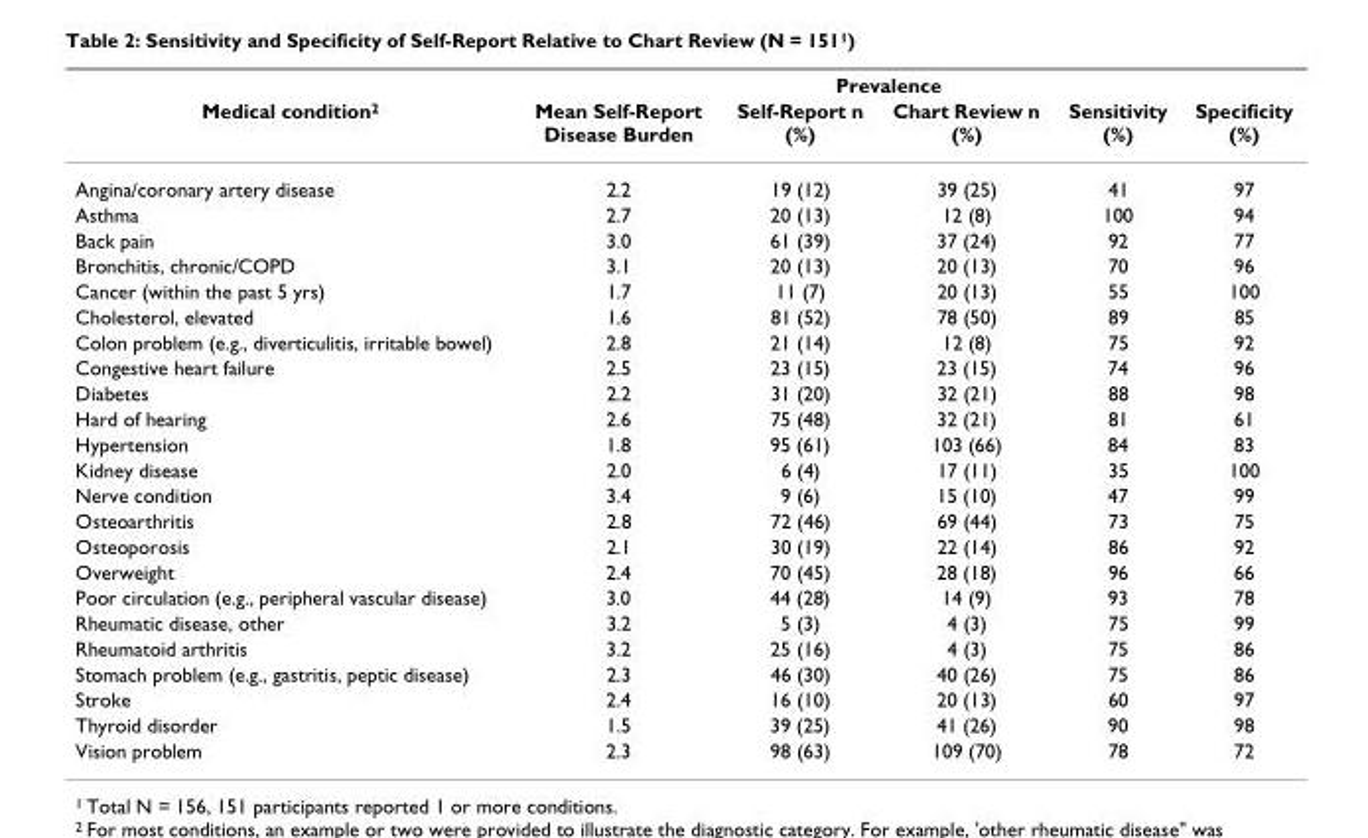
<table><thead><tr><td rowspan="2">Medical condition<sup>2</sup></td><td rowspan="2">Mean Self-Report Disease Burden</td><td colspan="2">Prevalence</td><td rowspan="2">Sensitivity (%)</td><td rowspan="2">Specificity (%)</td></tr><tr><td>Self-Report n (%)</td><td>Chart Review n (%)</td></tr></thead><tbody><tr><td>Angina/coronary artery disease</td><td>2.2</td><td>19 (12)</td><td>39 (25)</td><td>41</td><td>97</td></tr><tr><td>Asthma</td><td>2.7</td><td>20 (13)</td><td>12 (8)</td><td>100</td><td>94</td></tr><tr><td>Back pain</td><td>3.0</td><td>61 (39)</td><td>37 (24)</td><td>92</td><td>77</td></tr><tr><td>Bronchitis, chronic/COPD</td><td>3.1</td><td>20 (13)</td><td>20 (13)</td><td>70</td><td>96</td></tr><tr><td>Cancer (within the past 5 yrs)</td><td>1.7</td><td>11 (7)</td><td>20 (13)</td><td>55</td><td>100</td></tr><tr><td>Cholesterol, elevated</td><td>1.6</td><td>81 (52)</td><td>78 (50)</td><td>89</td><td>85</td></tr><tr><td>Colon problem (e.g., diverticulitis, irritable bowel)</td><td>2.8</td><td>21 (14)</td><td>12 (8)</td><td>75</td><td>92</td></tr><tr><td>Congestive heart failure</td><td>2.5</td><td>23 (15)</td><td>23 (15)</td><td>74</td><td>96</td></tr><tr><td>Diabetes</td><td>2.2</td><td>31 (20)</td><td>32 (21)</td><td>88</td><td>98</td></tr><tr><td>Hard of hearing</td><td>2.6</td><td>75 (48)</td><td>32 (21)</td><td>81</td><td>61</td></tr><tr><td>Hypertension</td><td>1.8</td><td>95 (61)</td><td>103 (66)</td><td>84</td><td>83</td></tr><tr><td>Kidney disease</td><td>2.0</td><td>6 (4)</td><td>17 (11)</td><td>35</td><td>100</td></tr><tr><td>Nerve condition</td><td>3.4</td><td>9 (6)</td><td>15 (10)</td><td>47</td><td>99</td></tr><tr><td>Osteoarthritis</td><td>2.8</td><td>72 (46)</td><td>69 (44)</td><td>73</td><td>75</td></tr><tr><td>Osteoporosis</td><td>2.1</td><td>30 (19)</td><td>22 (14)</td><td>86</td><td>92</td></tr><tr><td>Overweight</td><td>2.4</td><td>70 (45)</td><td>28 (18)</td><td>96</td><td>66</td></tr><tr><td>Poor circulation (e.g., peripheral vascular disease)</td><td>3.0</td><td>44 (28)</td><td>14 (9)</td><td>93</td><td>78</td></tr><tr><td>Rheumatic disease, other</td><td>3.2</td><td>5 (3)</td><td>4 (3)</td><td>75</td><td>99</td></tr><tr><td>Rheumatoid arthritis</td><td>3.2</td><td>25 (16)</td><td>4 (3)</td><td>75</td><td>86</td></tr><tr><td>Stomach problem (e.g., gastritis, peptic disease)</td><td>2.3</td><td>46 (30)</td><td>40 (26)</td><td>75</td><td>86</td></tr><tr><td>Stroke</td><td>2.4</td><td>16 (10)</td><td>20 (13)</td><td>60</td><td>97</td></tr><tr><td>Thyroid disorder</td><td>1.5</td><td>39 (25)</td><td>41 (26)</td><td>90</td><td>98</td></tr><tr><td>Vision problem</td><td>2.3</td><td>98 (63)</td><td>109 (70)</td><td>78</td><td>72</td></tr></tbody></table>